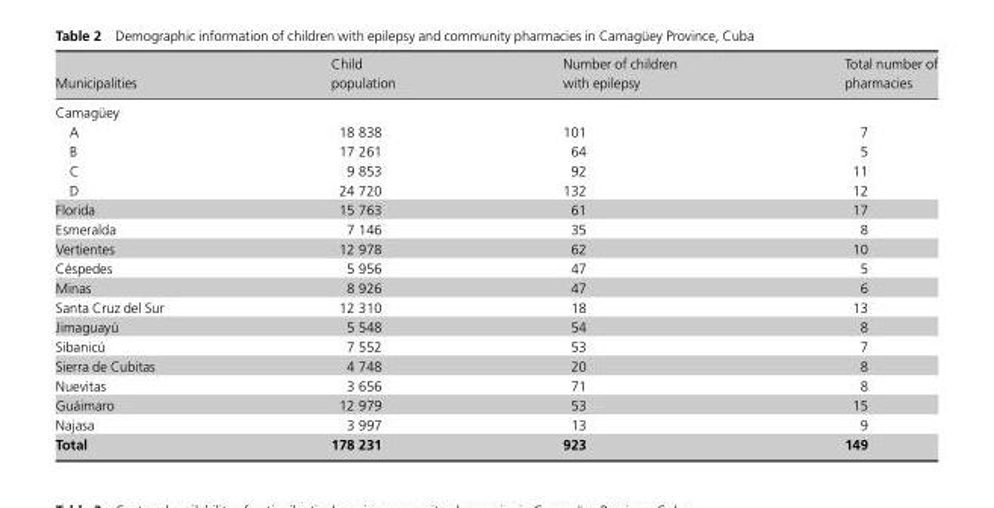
<table><thead><tr><td>Municipalities</td><td>Child population</td><td>Number of children with epilepsy</td><td>Total number of pharmacies</td></tr></thead><tbody><tr><td colspan="4">Camagüey</td></tr><tr><td>A</td><td>18 838</td><td>101</td><td>7</td></tr><tr><td>B</td><td>17 261</td><td>64</td><td>5</td></tr><tr><td>C</td><td>9 853</td><td>92</td><td>11</td></tr><tr><td>D</td><td>24 720</td><td>132</td><td>12</td></tr><tr><td>Florida</td><td>15 763</td><td>61</td><td>17</td></tr><tr><td>Esmeralda</td><td>7 146</td><td>35</td><td>8</td></tr><tr><td>Vertientes</td><td>12 978</td><td>62</td><td>10</td></tr><tr><td>Céspedes</td><td>5 956</td><td>47</td><td>5</td></tr><tr><td>Minas</td><td>8 926</td><td>47</td><td>6</td></tr><tr><td>Santa Cruz del Sur</td><td>12 310</td><td>18</td><td>13</td></tr><tr><td>Jimaguayú</td><td>5 548</td><td>54</td><td>8</td></tr><tr><td>Sibanicú</td><td>7 552</td><td>53</td><td>7</td></tr><tr><td>Sierra de Cubitas</td><td>4 748</td><td>20</td><td>8</td></tr><tr><td>Nuevitas</td><td>3 656</td><td>71</td><td>8</td></tr><tr><td>Guáimaro</td><td>12 979</td><td>53</td><td>15</td></tr><tr><td>Najasa</td><td>3 997</td><td>13</td><td>9</td></tr><tr><td>Total</td><td>178 231</td><td>923</td><td>149</td></tr></tbody></table>